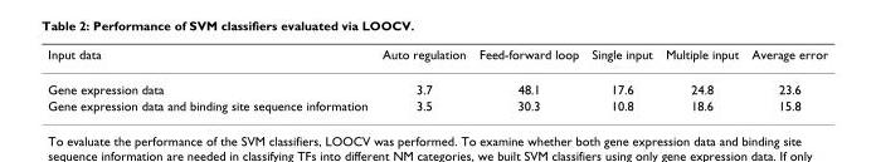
<table><thead><tr><td>Input data</td><td>Auto regulation</td><td>Feed-forward loop</td><td>Single input</td><td>Multiple input</td><td>Average error</td></tr></thead><tbody><tr><td>Gene expression data</td><td>3.7</td><td>48.1</td><td>17.6</td><td>24.8</td><td>23.6</td></tr><tr><td>Gene expression data and binding site sequence information</td><td>3.5</td><td>30.3</td><td>10.8</td><td>18.6</td><td>15.8</td></tr></tbody></table>